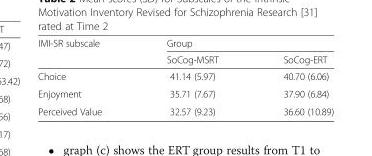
<table><thead><tr><td rowspan="2">IMI-SR subscale</td><td colspan="2">Group</td></tr><tr><td>SoCog-MSRT</td><td>SoCog-ERT</td></tr></thead><tbody><tr><td>Choice</td><td>41.14 (5.97)</td><td>40.70 (6.06)</td></tr><tr><td>Enjoyment</td><td>35.71 (7.67)</td><td>37.90 (6.84)</td></tr><tr><td>Perceived Value</td><td>32.57 (9.23)</td><td>36.60 (10.89)</td></tr></tbody></table>